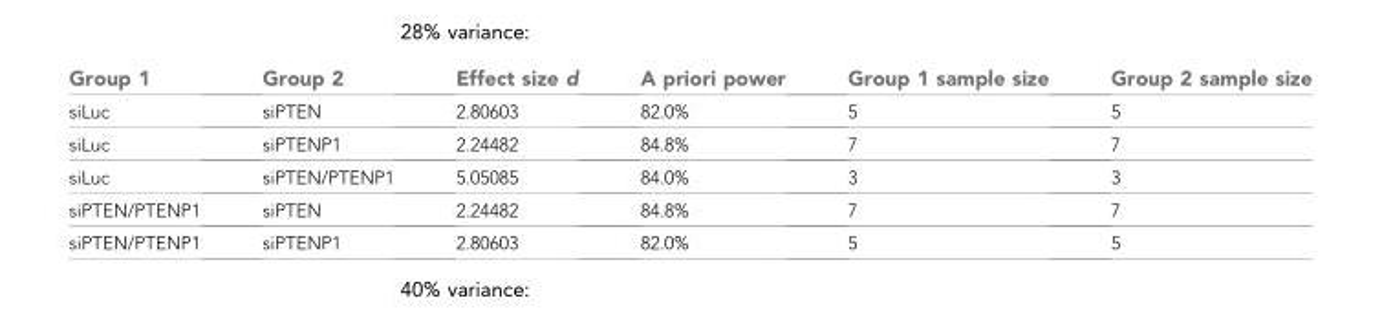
<table><thead><tr><td>Group 1</td><td>Group 2</td><td>Effect size d</td><td>A priori power</td><td>Group 1 sample size</td><td>Group 2 sample size</td></tr></thead><tbody><tr><td>siLuc</td><td>siPTEN</td><td>2.80603</td><td>82.0%</td><td>5</td><td>5</td></tr><tr><td>siLuc</td><td>siPTENP1</td><td>2.24482</td><td>84.8%</td><td>7</td><td>7</td></tr><tr><td>siLuc</td><td>siPTEN/PTENP1</td><td>5.05085</td><td>84.0%</td><td>3</td><td>3</td></tr><tr><td>siPTEN/PTENP1</td><td>siPTEN</td><td>2.24482</td><td>84.8%</td><td>7</td><td>7</td></tr><tr><td>siPTEN/PTENP1</td><td>siPTENP1</td><td>2.80603</td><td>82.0%</td><td>5</td><td>5</td></tr></tbody></table>